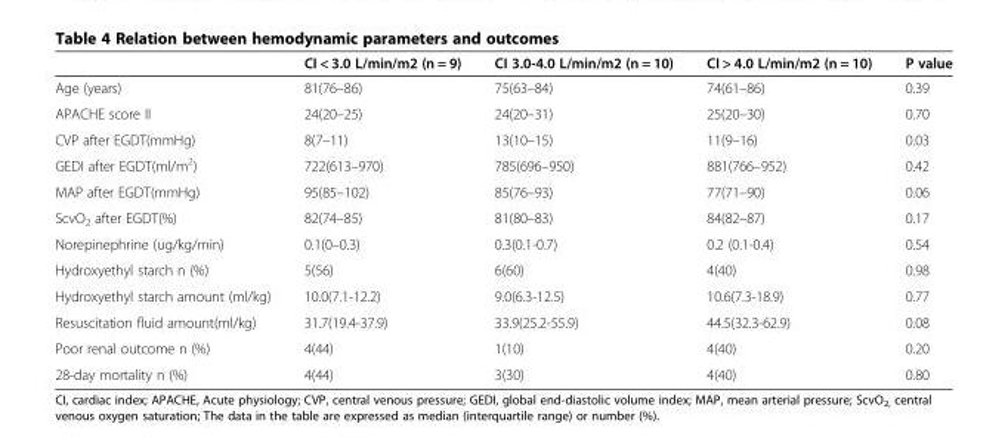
<table><thead><tr><td></td><td>CI &lt; 3.0 L/min/m2 (n = 9)</td><td>CI 3.0-4.0 L/min/m2 (n = 10)</td><td>CI &gt; 4.0 L/min/m2 (n = 10)</td><td>P value</td></tr></thead><tbody><tr><td>Age (years)</td><td>81(76–86)</td><td>75(63–84)</td><td>74(61–86)</td><td>0.39</td></tr><tr><td>APACHE score II</td><td>24(20–25)</td><td>24(20–31)</td><td>25(20–30)</td><td>0.70</td></tr><tr><td>CVP after EGDT(mmHg)</td><td>8(7–11)</td><td>13(10–15)</td><td>11(9–16)</td><td>0.03</td></tr><tr><td>GEDI after EGDT(ml/m<sup>2</sup>)</td><td>722(613–970)</td><td>785(696–950)</td><td>881(766–952)</td><td>0.42</td></tr><tr><td>MAP after EGDT(mmHg)</td><td>95(85–102)</td><td>85(76–93)</td><td>77(71–90)</td><td>0.06</td></tr><tr><td>ScvO<sub>2</sub> after EGDT(%)</td><td>82(74–85)</td><td>81(80–83)</td><td>84(82–87)</td><td>0.17</td></tr><tr><td>Norepinephrine (ug/kg/min)</td><td>0.1(0–0.3)</td><td>0.3(0.1-0.7)</td><td>0.2 (0.1-0.4)</td><td>0.54</td></tr><tr><td>Hydroxyethyl starch n (%)</td><td>5(56)</td><td>6(60)</td><td>4(40)</td><td>0.98</td></tr><tr><td>Hydroxyethyl starch amount (ml/kg)</td><td>10.0(7.1-12.2)</td><td>9.0(6.3-12.5)</td><td>10.6(7.3-18.9)</td><td>0.77</td></tr><tr><td>Resuscitation fluid amount(ml/kg)</td><td>31.7(19.4-37.9)</td><td>33.9(25.2-55.9)</td><td>44.5(32.3-62.9)</td><td>0.08</td></tr><tr><td>Poor renal outcome n (%)</td><td>4(44)</td><td>1(10)</td><td>4(40)</td><td>0.20</td></tr><tr><td>28-day mortality n (%)</td><td>4(44)</td><td>3(30)</td><td>4(40)</td><td>0.80</td></tr></tbody></table>